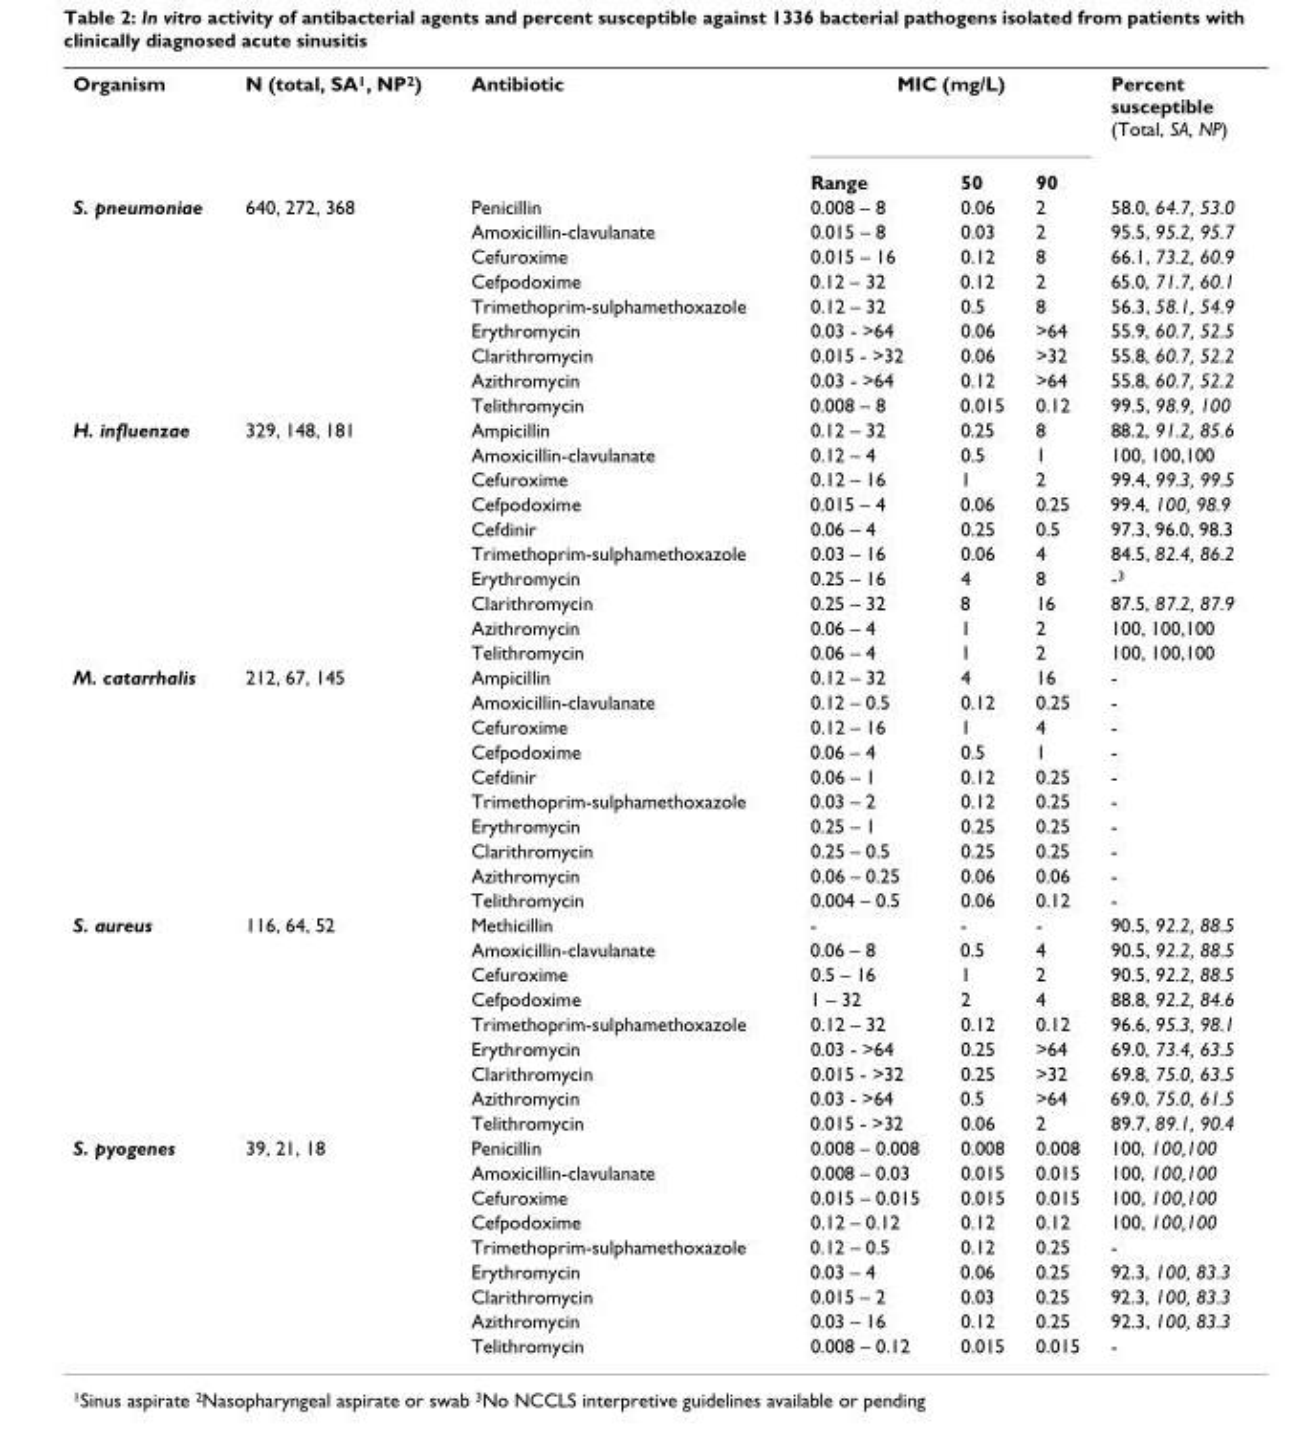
<table><tbody><tr><td rowspan="2">Organism</td><td>N (total, SA<sup>1</sup>, NP<sup>2</sup>)</td><td>Antibiotic</td><td colspan="3">MIC (mg/L)</td><td>Percent susceptible (Total, SA, NP)</td></tr><tr><td></td><td></td><td>Range</td><td>50</td><td>90</td><td></td></tr><tr><td rowspan="9">S. pneumoniae</td><td>640, 272, 368</td><td>Penicillin</td><td>0.008 – 8</td><td>0.06</td><td>2</td><td>58.0, 64.7, 53.0</td></tr><tr><td></td><td>Amoxicillin-clavulanate</td><td>0.015 – 8</td><td>0.03</td><td>2</td><td>95.5, 95.2, 95.7</td></tr><tr><td></td><td>Cefuroxime</td><td>0.015 – 16</td><td>0.12</td><td>8</td><td>66.1, 73.2, 60.9</td></tr><tr><td></td><td>Cefpodoxime</td><td>0.12 – 32</td><td>0.12</td><td>2</td><td>65.0, 71.7, 60.1</td></tr><tr><td></td><td>Trimethoprim-sulphamethoxazole</td><td>0.12 – 32</td><td>0.5</td><td>8</td><td>56.3, 58.1, 54.9</td></tr><tr><td></td><td>Erythromycin</td><td>0.03 - &gt;64</td><td>0.06</td><td>&gt;64</td><td>55.9, 60.7, 52.5</td></tr><tr><td></td><td>Clarithromycin</td><td>0.015 - &gt;32</td><td>0.06</td><td>&gt;32</td><td>55.8, 60.7, 52.2</td></tr><tr><td></td><td>Azithromycin</td><td>0.03 - &gt;64</td><td>0.12</td><td>&gt;64</td><td>55.8, 60.7, 52.2</td></tr><tr><td></td><td>Telithromycin</td><td>0.008 – 8</td><td>0.015</td><td>0.12</td><td>99.5, 98.9, 100</td></tr><tr><td rowspan="10">H. influenzae</td><td>329, 148, 181</td><td>Ampicillin</td><td>0.12 – 32</td><td>0.25</td><td>8</td><td>88.2, 91.2, 85.6</td></tr><tr><td></td><td>Amoxicillin-clavulanate</td><td>0.12 – 4</td><td>0.5</td><td>1</td><td>100, 100,100</td></tr><tr><td></td><td>Cefuroxime</td><td>0.12 – 16</td><td>1</td><td>2</td><td>99.4, 99.3, 99.5</td></tr><tr><td></td><td>Cefpodoxime</td><td>0.015 – 4</td><td>0.06</td><td>0.25</td><td>99.4, 100, 98.9</td></tr><tr><td></td><td>Cefdinir</td><td>0.06 – 4</td><td>0.25</td><td>0.5</td><td>97.3, 96.0, 98.3</td></tr><tr><td></td><td>Trimethoprim-sulphamethoxazole</td><td>0.03 – 16</td><td>0.06</td><td>4</td><td>84.5, 82.4, 86.2</td></tr><tr><td></td><td>Erythromycin</td><td>0.25 – 16</td><td>4</td><td>8</td><td>-<sup>3</sup></td></tr><tr><td></td><td>Clarithromycin</td><td>0.25 – 32</td><td>8</td><td>16</td><td>87.5, 87.2, 87.9</td></tr><tr><td></td><td>Azithromycin</td><td>0.06 – 4</td><td>1</td><td>2</td><td>100, 100,100</td></tr><tr><td></td><td>Telithromycin</td><td>0.06 – 4</td><td>1</td><td>2</td><td>100, 100,100</td></tr><tr><td rowspan="10">M. catarrhalis</td><td>212, 67, 145</td><td>Ampicillin</td><td>0.12 – 32</td><td>4</td><td>16</td><td>-</td></tr><tr><td></td><td>Amoxicillin-clavulanate</td><td>0.12 – 0.5</td><td>0.12</td><td>0.25</td><td>-</td></tr><tr><td></td><td>Cefuroxime</td><td>0.12 – 16</td><td>1</td><td>4</td><td>-</td></tr><tr><td></td><td>Cefpodoxime</td><td>0.06 – 4</td><td>0.5</td><td>1</td><td>-</td></tr><tr><td></td><td>Cefdinir</td><td>0.06 – 1</td><td>0.12</td><td>0.25</td><td>-</td></tr><tr><td></td><td>Trimethoprim-sulphamethoxazole</td><td>0.03 – 2</td><td>0.12</td><td>0.25</td><td>-</td></tr><tr><td></td><td>Erythromycin</td><td>0.25 – 1</td><td>0.25</td><td>0.25</td><td>-</td></tr><tr><td></td><td>Clarithromycin</td><td>0.25 – 0.5</td><td>0.25</td><td>0.25</td><td>-</td></tr><tr><td></td><td>Azithromycin</td><td>0.06 – 0.25</td><td>0.06</td><td>0.06</td><td>-</td></tr><tr><td></td><td>Telithromycin</td><td>0.004 – 0.5</td><td>0.06</td><td>0.12</td><td>-</td></tr><tr><td rowspan="9">S. aureus</td><td>116, 64, 52</td><td>Methicillin</td><td>-</td><td>-</td><td>-</td><td>90.5, 92.2, 88.5</td></tr><tr><td></td><td>Amoxicillin-clavulanate</td><td>0.06 – 8</td><td>0.5</td><td>4</td><td>90.5, 92.2, 88.5</td></tr><tr><td></td><td>Cefuroxime</td><td>0.5 – 16</td><td>1</td><td>2</td><td>90.5, 92.2, 88.5</td></tr><tr><td></td><td>Cefpodoxime</td><td>1 – 32</td><td>2</td><td>4</td><td>88.8, 92.2, 84.6</td></tr><tr><td></td><td>Trimethoprim-sulphamethoxazole</td><td>0.12 – 32</td><td>0.12</td><td>0.12</td><td>96.6, 95.3, 98.1</td></tr><tr><td></td><td>Erythromycin</td><td>0.03 - &gt;64</td><td>0.25</td><td>&gt;64</td><td>69.0, 73.4, 63.5</td></tr><tr><td></td><td>Clarithromycin</td><td>0.015 - &gt;32</td><td>0.25</td><td>&gt;32</td><td>69.8, 75.0, 63.5</td></tr><tr><td></td><td>Azithromycin</td><td>0.03 - &gt;64</td><td>0.5</td><td>&gt;64</td><td>69.0, 75.0, 61.5</td></tr><tr><td></td><td>Telithromycin</td><td>0.015 - &gt;32</td><td>0.06</td><td>2</td><td>89.7, 89.1, 90.4</td></tr><tr><td rowspan="9">S. pyogenes</td><td>39, 21, 18</td><td>Penicillin</td><td>0.008 – 0.008</td><td>0.008</td><td>0.008</td><td>100, 100,100</td></tr><tr><td></td><td>Amoxicillin-clavulanate</td><td>0.008 – 0.03</td><td>0.015</td><td>0.015</td><td>100, 100,100</td></tr><tr><td></td><td>Cefuroxime</td><td>0.015 – 0.015</td><td>0.015</td><td>0.015</td><td>100, 100,100</td></tr><tr><td></td><td>Cefpodoxime</td><td>0.12 – 0.12</td><td>0.12</td><td>0.12</td><td>100, 100,100</td></tr><tr><td></td><td>Trimethoprim-sulphamethoxazole</td><td>0.12 – 0.5</td><td>0.12</td><td>0.25</td><td>-</td></tr><tr><td></td><td>Erythromycin</td><td>0.03 – 4</td><td>0.06</td><td>0.25</td><td>92.3, 100, 83.3</td></tr><tr><td></td><td>Clarithromycin</td><td>0.015 – 2</td><td>0.03</td><td>0.25</td><td>92.3, 100, 83.3</td></tr><tr><td></td><td>Azithromycin</td><td>0.03 – 16</td><td>0.12</td><td>0.25</td><td>92.3, 100, 83.3</td></tr><tr><td></td><td>Telithromycin</td><td>0.008 – 0.12</td><td>0.015</td><td>0.015</td><td>-</td></tr></tbody></table>